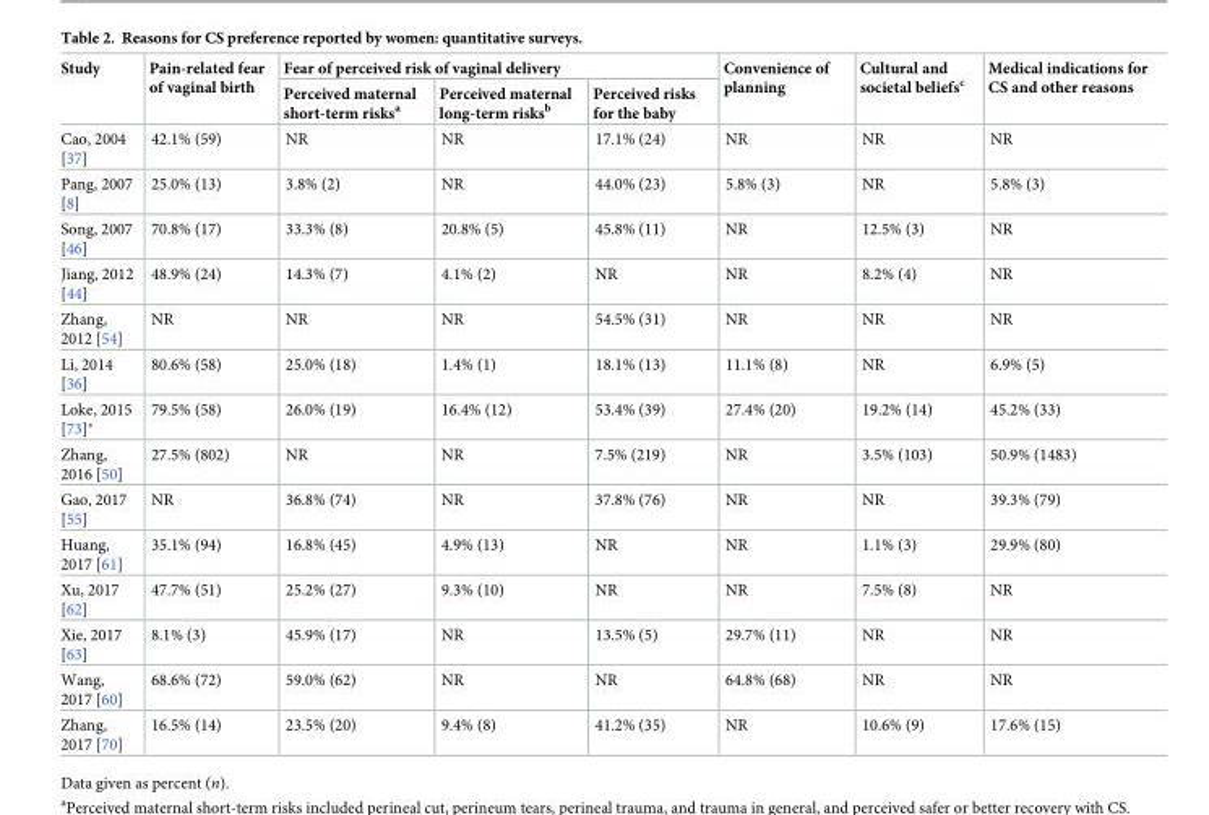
<table><thead><tr><td rowspan="2">Study</td><td rowspan="2">Pain-related fear of vaginal birth</td><td colspan="3">Fear of perceived risk of vaginal delivery</td><td rowspan="2">Convenience of planning</td><td rowspan="2">Cultural and societal beliefs<sup>c</sup></td><td rowspan="2">Medical indications for CS and other reasons</td></tr><tr><td>Perceived maternal short-term risks<sup>a</sup></td><td>Perceived maternal long-term risks<sup>b</sup></td><td>Perceived risks for the baby</td></tr></thead><tbody><tr><td>Cao, 2004 [37]</td><td>42.1% (59)</td><td>NR</td><td>NR</td><td>17.1% (24)</td><td>NR</td><td>NR</td><td>NR</td></tr><tr><td>Pang, 2007 [8]</td><td>25.0% (13)</td><td>3.8% (2)</td><td>NR</td><td>44.0% (23)</td><td>5.8% (3)</td><td>NR</td><td>5.8% (3)</td></tr><tr><td>Song, 2007 [46]</td><td>70.8% (17)</td><td>33.3% (8)</td><td>20.8% (5)</td><td>45.8% (11)</td><td>NR</td><td>12.5% (3)</td><td>NR</td></tr><tr><td>Jiang, 2012 [44]</td><td>48.9% (24)</td><td>14.3% (7)</td><td>4.1% (2)</td><td>NR</td><td>NR</td><td>8.2% (4)</td><td>NR</td></tr><tr><td>Zhang, 2012 [54]</td><td>NR</td><td>NR</td><td>NR</td><td>54.5% (31)</td><td>NR</td><td>NR</td><td>NR</td></tr><tr><td>Li, 2014 [36]</td><td>80.6% (58)</td><td>25.0% (18)</td><td>1.4% (1)</td><td>18.1% (13)</td><td>11.1% (8)</td><td>NR</td><td>6.9% (5)</td></tr><tr><td>Loke, 2015 [73]*</td><td>79.5% (58)</td><td>26.0% (19)</td><td>16.4% (12)</td><td>53.4% (39)</td><td>27.4% (20)</td><td>19.2% (14)</td><td>45.2% (33)</td></tr><tr><td>Zhang, 2016 [50]</td><td>27.5% (802)</td><td>NR</td><td>NR</td><td>7.5% (219)</td><td>NR</td><td>3.5% (103)</td><td>50.9% (1483)</td></tr><tr><td>Gao, 2017 [55]</td><td>NR</td><td>36.8% (74)</td><td>NR</td><td>37.8% (76)</td><td>NR</td><td>NR</td><td>39.3% (79)</td></tr><tr><td>Huang, 2017 [61]</td><td>35.1% (94)</td><td>16.8% (45)</td><td>4.9% (13)</td><td>NR</td><td>NR</td><td>1.1% (3)</td><td>29.9% (80)</td></tr><tr><td>Xu, 2017 [62]</td><td>47.7% (51)</td><td>25.2% (27)</td><td>9.3% (10)</td><td>NR</td><td>NR</td><td>7.5% (8)</td><td>NR</td></tr><tr><td>Xie, 2017 [63]</td><td>8.1% (3)</td><td>45.9% (17)</td><td>NR</td><td>13.5% (5)</td><td>29.7% (11)</td><td>NR</td><td>NR</td></tr><tr><td>Wang, 2017 [60]</td><td>68.6% (72)</td><td>59.0% (62)</td><td>NR</td><td>NR</td><td>64.8% (68)</td><td>NR</td><td>NR</td></tr><tr><td>Zhang, 2017 [70]</td><td>16.5% (14)</td><td>23.5% (20)</td><td>9.4% (8)</td><td>41.2% (35)</td><td>NR</td><td>10.6% (9)</td><td>17.6% (15)</td></tr></tbody></table>